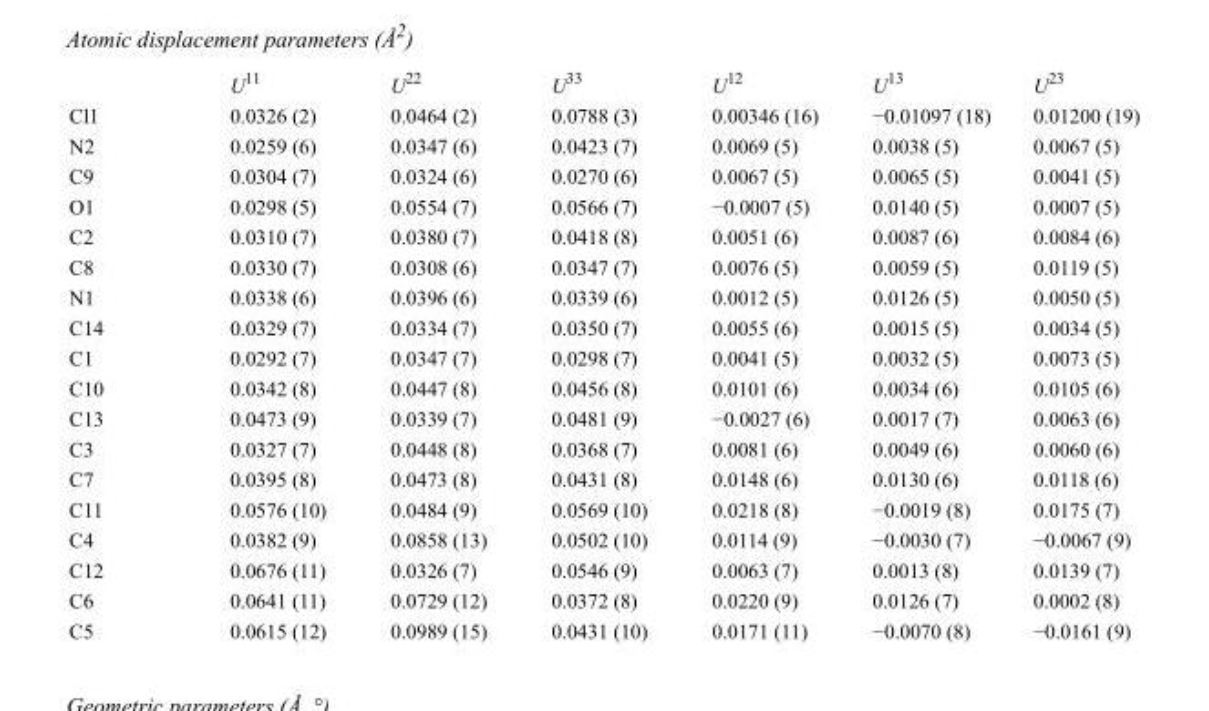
<table><thead><tr><td></td><td>U<sup>11</sup></td><td>U<sup>22</sup></td><td>U<sup>33</sup></td><td>U<sup>12</sup></td><td>U<sup>13</sup></td><td>U<sup>23</sup></td></tr></thead><tbody><tr><td>Cl1</td><td>0.0326 (2)</td><td>0.0464 (2)</td><td>0.0788 (3)</td><td>0.00346 (16)</td><td>−0.01097 (18)</td><td>0.01200 (19)</td></tr><tr><td>N2</td><td>0.0259 (6)</td><td>0.0347 (6)</td><td>0.0423 (7)</td><td>0.0069 (5)</td><td>0.0038 (5)</td><td>0.0067 (5)</td></tr><tr><td>C9</td><td>0.0304 (7)</td><td>0.0324 (6)</td><td>0.0270 (6)</td><td>0.0067 (5)</td><td>0.0065 (5)</td><td>0.0041 (5)</td></tr><tr><td>O1</td><td>0.0298 (5)</td><td>0.0554 (7)</td><td>0.0566 (7)</td><td>−0.0007 (5)</td><td>0.0140 (5)</td><td>0.0007 (5)</td></tr><tr><td>C2</td><td>0.0310 (7)</td><td>0.0380 (7)</td><td>0.0418 (8)</td><td>0.0051 (6)</td><td>0.0087 (6)</td><td>0.0084 (6)</td></tr><tr><td>C8</td><td>0.0330 (7)</td><td>0.0308 (6)</td><td>0.0347 (7)</td><td>0.0076 (5)</td><td>0.0059 (5)</td><td>0.0119 (5)</td></tr><tr><td>N1</td><td>0.0338 (6)</td><td>0.0396 (6)</td><td>0.0339 (6)</td><td>0.0012 (5)</td><td>0.0126 (5)</td><td>0.0050 (5)</td></tr><tr><td>C14</td><td>0.0329 (7)</td><td>0.0334 (7)</td><td>0.0350 (7)</td><td>0.0055 (6)</td><td>0.0015 (5)</td><td>0.0034 (5)</td></tr><tr><td>C1</td><td>0.0292 (7)</td><td>0.0347 (7)</td><td>0.0298 (7)</td><td>0.0041 (5)</td><td>0.0032 (5)</td><td>0.0073 (5)</td></tr><tr><td>C10</td><td>0.0342 (8)</td><td>0.0447 (8)</td><td>0.0456 (8)</td><td>0.0101 (6)</td><td>0.0034 (6)</td><td>0.0105 (6)</td></tr><tr><td>C13</td><td>0.0473 (9)</td><td>0.0339 (7)</td><td>0.0481 (9)</td><td>−0.0027 (6)</td><td>0.0017 (7)</td><td>0.0063 (6)</td></tr><tr><td>C3</td><td>0.0327 (7)</td><td>0.0448 (8)</td><td>0.0368 (7)</td><td>0.0081 (6)</td><td>0.0049 (6)</td><td>0.0060 (6)</td></tr><tr><td>C7</td><td>0.0395 (8)</td><td>0.0473 (8)</td><td>0.0431 (8)</td><td>0.0148 (6)</td><td>0.0130 (6)</td><td>0.0118 (6)</td></tr><tr><td>C11</td><td>0.0576 (10)</td><td>0.0484 (9)</td><td>0.0569 (10)</td><td>0.0218 (8)</td><td>−0.0019 (8)</td><td>0.0175 (7)</td></tr><tr><td>C4</td><td>0.0382 (9)</td><td>0.0858 (13)</td><td>0.0502 (10)</td><td>0.0114 (9)</td><td>−0.0030 (7)</td><td>−0.0067 (9)</td></tr><tr><td>C12</td><td>0.0676 (11)</td><td>0.0326 (7)</td><td>0.0546 (9)</td><td>0.0063 (7)</td><td>0.0013 (8)</td><td>0.0139 (7)</td></tr><tr><td>C6</td><td>0.0641 (11)</td><td>0.0729 (12)</td><td>0.0372 (8)</td><td>0.0220 (9)</td><td>0.0126 (7)</td><td>0.0002 (8)</td></tr><tr><td>C5</td><td>0.0615 (12)</td><td>0.0989 (15)</td><td>0.0431 (10)</td><td>0.0171 (11)</td><td>−0.0070 (8)</td><td>−0.0161 (9)</td></tr></tbody></table>